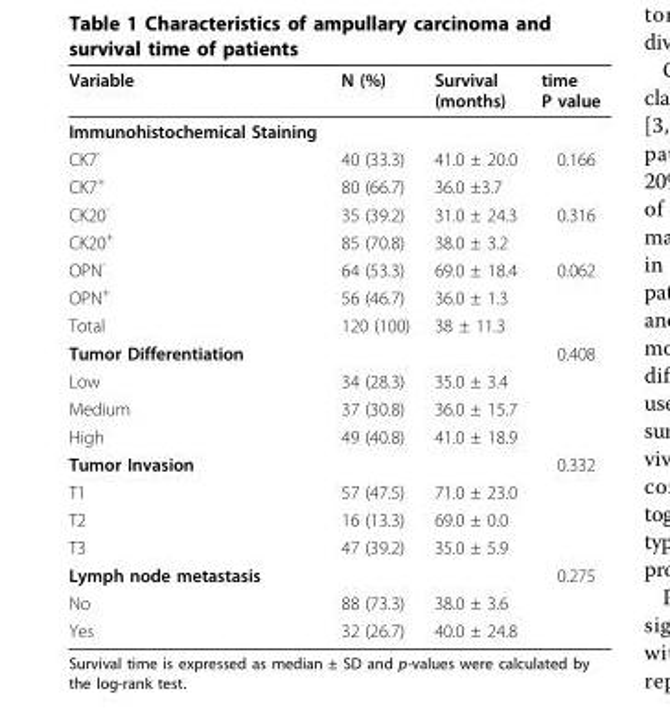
<table><thead><tr><td>Variable</td><td>N (%)</td><td>Survival (months)</td><td>time P value</td></tr></thead><tbody><tr><td colspan="4">Immunohistochemical Staining</td></tr><tr><td>CK7<sup>-</sup></td><td>40 (33.3)</td><td>41.0 ± 20.0</td><td>0.166</td></tr><tr><td>CK7<sup>+</sup></td><td>80 (66.7)</td><td>36.0 ±3.7</td><td></td></tr><tr><td>CK20<sup>-</sup></td><td>35 (39.2)</td><td>31.0 ± 24.3</td><td>0.316</td></tr><tr><td>CK20<sup>+</sup></td><td>85 (70.8)</td><td>38.0 ± 3.2</td><td></td></tr><tr><td>OPN<sup>-</sup></td><td>64 (53.3)</td><td>69.0 ± 18.4</td><td>0.062</td></tr><tr><td>OPN<sup>+</sup></td><td>56 (46.7)</td><td>36.0 ± 1.3</td><td></td></tr><tr><td>Total</td><td>120 (100)</td><td>38 ± 11.3</td><td></td></tr><tr><td>Tumor Differentiation</td><td></td><td></td><td>0.408</td></tr><tr><td>Low</td><td>34 (28.3)</td><td>35.0 ± 3.4</td><td></td></tr><tr><td>Medium</td><td>37 (30.8)</td><td>36.0 ± 15.7</td><td></td></tr><tr><td>High</td><td>49 (40.8)</td><td>41.0 ± 18.9</td><td></td></tr><tr><td>Tumor Invasion</td><td></td><td></td><td>0.332</td></tr><tr><td>T1</td><td>57 (47.5)</td><td>71.0 ± 23.0</td><td></td></tr><tr><td>T2</td><td>16 (13.3)</td><td>69.0 ± 0.0</td><td></td></tr><tr><td>T3</td><td>47 (39.2)</td><td>35.0 ± 5.9</td><td></td></tr><tr><td>Lymph node metastasis</td><td></td><td></td><td>0.275</td></tr><tr><td>No</td><td>88 (73.3)</td><td>38.0 ± 3.6</td><td></td></tr><tr><td>Yes</td><td>32 (26.7)</td><td>40.0 ± 24.8</td><td></td></tr></tbody></table>